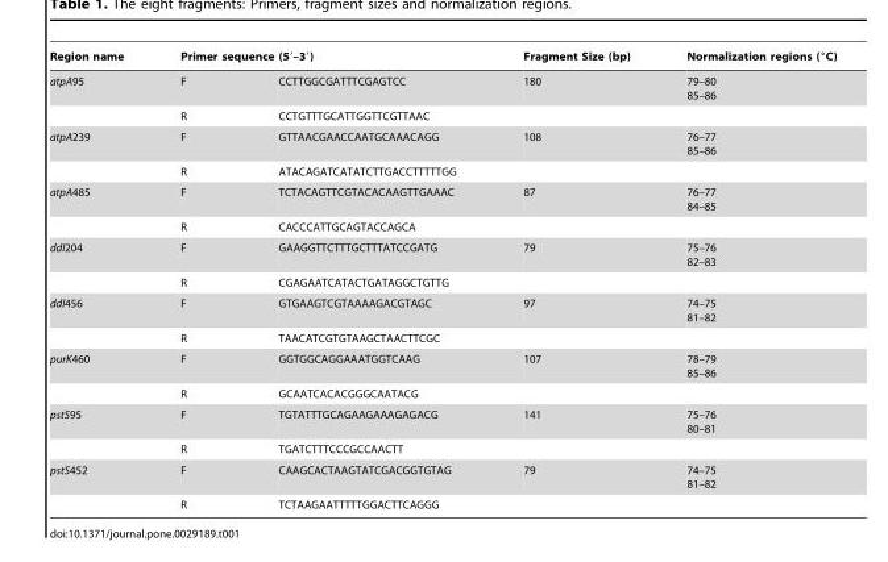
<table><thead><tr><td rowspan="2">Region name atpA95</td><td colspan="2">Primer sequence (5′–3′)</td><td rowspan="2">Fragment Size (bp) 180</td><td rowspan="2">Normalization regions (°C) 79–80 85–86</td></tr><tr><td>F</td><td>CCTTGGCGATTTCGAGTCC</td></tr></thead><tbody><tr><td></td><td>R</td><td>CCTGTTTGCATTGGTTCGTTAAC</td><td></td><td></td></tr><tr><td rowspan="2">atpA239</td><td>F</td><td>GTTAACGAACCAATGCAAACAGG</td><td>108</td><td>76–77 85–86</td></tr><tr><td>R</td><td>ATACAGATCATATCTTGACCTTTTTGG</td><td></td><td></td></tr><tr><td rowspan="2">atpA485</td><td>F</td><td>TCTACAGTTCGTACACAAGTTGAAAC</td><td>87</td><td>76–77 84–85</td></tr><tr><td>R</td><td>CACCCATTGCAGTACCAGCA</td><td></td><td></td></tr><tr><td rowspan="2">ddl204</td><td>F</td><td>GAAGGTTCTTTGCTTTATCCGATG</td><td>79</td><td>75–76 82–83</td></tr><tr><td>R</td><td>CGAGAATCATACTGATAGGCTGTTG</td><td></td><td></td></tr><tr><td rowspan="2">ddl456</td><td>F</td><td>GTGAAGTCGTAAAAGACGTAGC</td><td>97</td><td>74–75 81–82</td></tr><tr><td>R</td><td>TAACATCGTGTAAGCTAACTTCGC</td><td></td><td></td></tr><tr><td rowspan="2">purK460</td><td>F</td><td>GGTGGCAGGAAATGGTCAAG</td><td>107</td><td>78–79 85–86</td></tr><tr><td>R</td><td>GCAATCACACGGGCAATACG</td><td></td><td></td></tr><tr><td rowspan="2">pstS95</td><td>F</td><td>TGTATTTGCAGAAGAAAGAGACG</td><td>141</td><td>75–76 80–81</td></tr><tr><td>R</td><td>TGATCTTTCCCGCCAACTT</td><td></td><td></td></tr><tr><td rowspan="2">pstS452</td><td>F</td><td>CAAGCACTAAGTATCGACGGTGTAG</td><td>79</td><td>74–75 81–82</td></tr><tr><td>R</td><td>TCTAAGAATTTTTGGACTTCAGGG</td><td></td><td></td></tr></tbody></table>